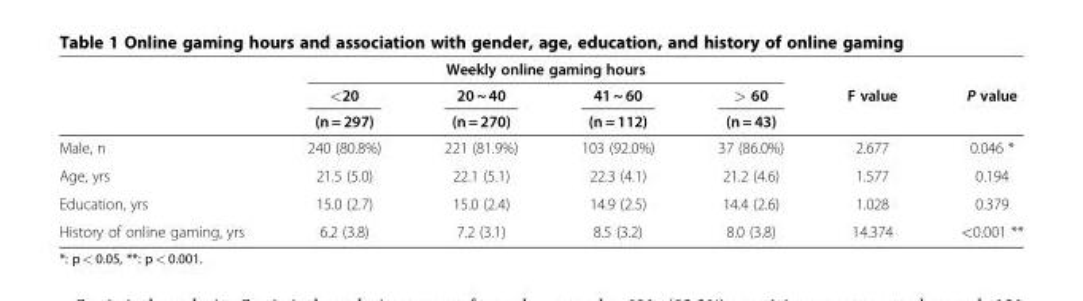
<table><thead><tr><td rowspan="3"></td><td colspan="4">Weekly online gaming hours</td><td rowspan="3">F value</td><td rowspan="3">P value</td></tr><tr><td rowspan="2">&lt;20 (n = 297)</td><td rowspan="2">20 ~ 40 (n = 270)</td><td rowspan="2">41 ~ 60 (n = 112)</td><td rowspan="2">&gt; 60 (n = 43)</td></tr><tr></tr></thead><tbody><tr><td>Male, n</td><td>240 (80.8%)</td><td>221 (81.9%)</td><td>103 (92.0%)</td><td>37 (86.0%)</td><td>2.677</td><td>0.046 *</td></tr><tr><td>Age, yrs</td><td>21.5 (5.0)</td><td>22.1 (5.1)</td><td>22.3 (4.1)</td><td>21.2 (4.6)</td><td>1.577</td><td>0.194</td></tr><tr><td>Education, yrs</td><td>15.0 (2.7)</td><td>15.0 (2.4)</td><td>14.9 (2.5)</td><td>14.4 (2.6)</td><td>1.028</td><td>0.379</td></tr><tr><td>History of online gaming, yrs</td><td>6.2 (3.8)</td><td>7.2 (3.1)</td><td>8.5 (3.2)</td><td>8.0 (3.8)</td><td>14.374</td><td>&lt;0.001 **</td></tr></tbody></table>